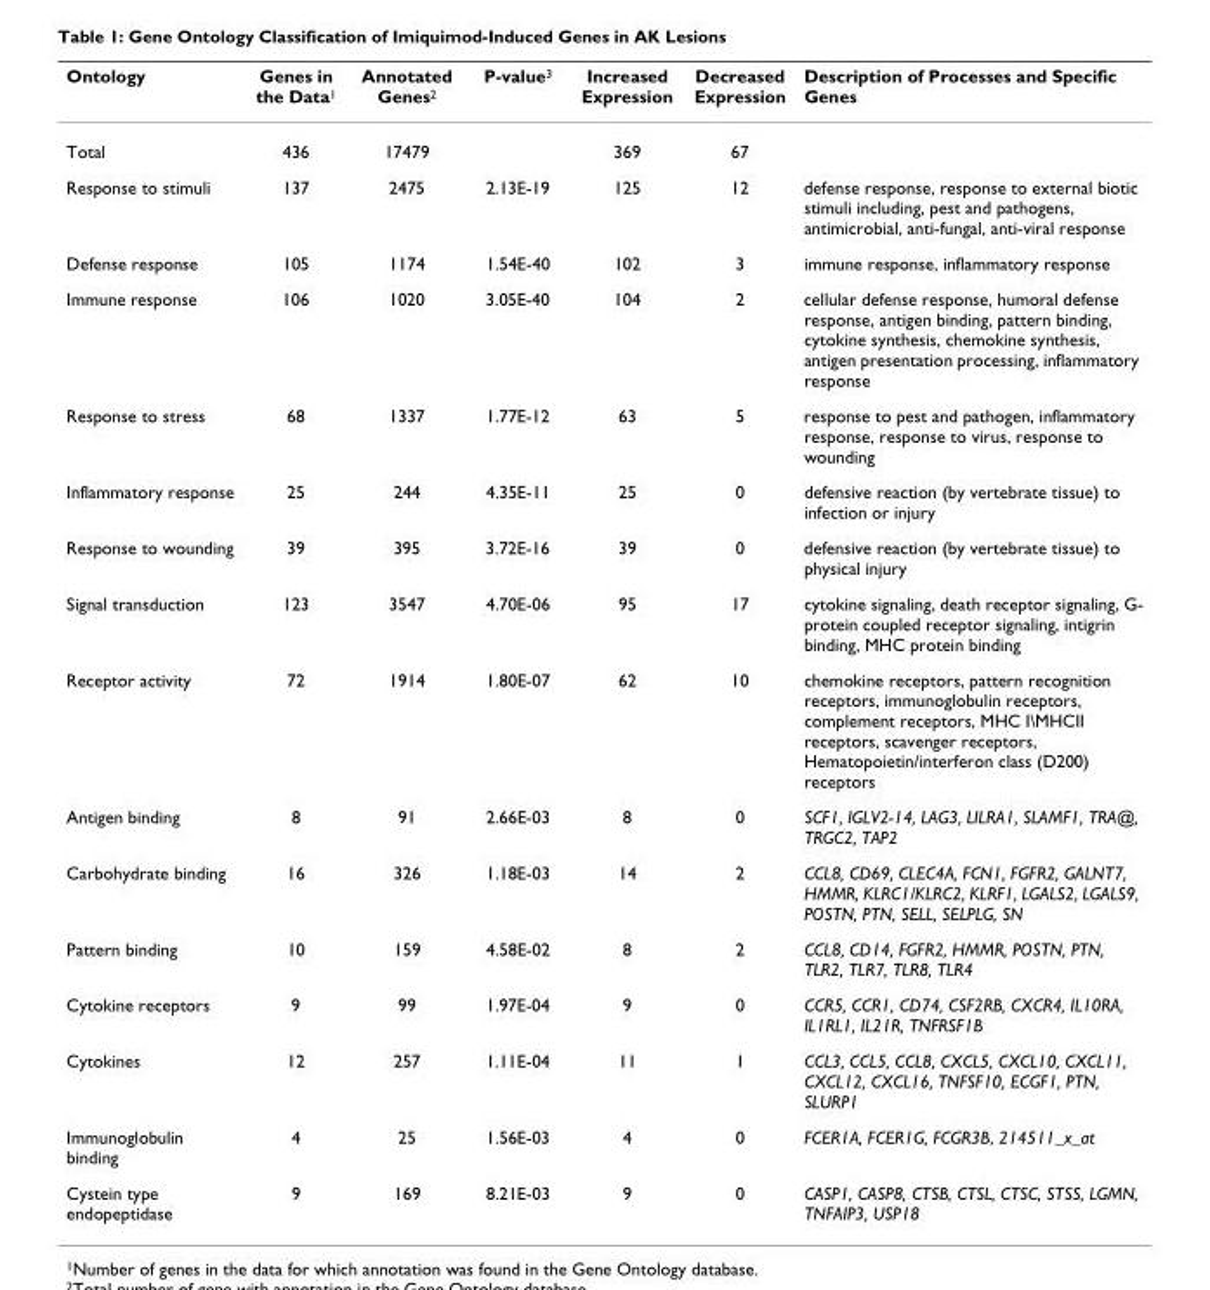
<table><thead><tr><td>Ontology</td><td>Genes in the Data<sup>1</sup></td><td>Annotated Genes<sup>2</sup></td><td>P-value<sup>3</sup></td><td>Increased Expression</td><td>Decreased Expression</td><td>Description of Processes and Specific Genes</td></tr></thead><tbody><tr><td>Total</td><td>436</td><td>17479</td><td></td><td>369</td><td>67</td><td></td></tr><tr><td>Response to stimuli</td><td>137</td><td>2475</td><td>2.13E-19</td><td>125</td><td>12</td><td>defense response, response to external biotic stimuli including, pest and pathogens, antimicrobial, anti-fungal, anti-viral response</td></tr><tr><td>Defense response</td><td>105</td><td>1174</td><td>1.54E-40</td><td>102</td><td>3</td><td>immune response, inflammatory response</td></tr><tr><td>Immune response</td><td>106</td><td>1020</td><td>3.05E-40</td><td>104</td><td>2</td><td>cellular defense response, humoral defense response, antigen binding, pattern binding, cytokine synthesis, chemokine synthesis, antigen presentation processing, inflammatory response</td></tr><tr><td>Response to stress</td><td>68</td><td>1337</td><td>1.77E-12</td><td>63</td><td>5</td><td>response to pest and pathogen, inflammatory response, response to virus, response to wounding</td></tr><tr><td>Inflammatory response</td><td>25</td><td>244</td><td>4.35E-11</td><td>25</td><td>0</td><td>defensive reaction (by vertebrate tissue) to infection or injury</td></tr><tr><td>Response to wounding</td><td>39</td><td>395</td><td>3.72E-16</td><td>39</td><td>0</td><td>defensive reaction (by vertebrate tissue) to physical injury</td></tr><tr><td>Signal transduction</td><td>123</td><td>3547</td><td>4.70E-06</td><td>95</td><td>17</td><td>cytokine signaling, death receptor signaling, G- protein coupled receptor signaling, intigrin binding, MHC protein binding</td></tr><tr><td>Receptor activity</td><td>72</td><td>1914</td><td>1.80E-07</td><td>62</td><td>10</td><td>chemokine receptors, pattern recognition receptors, immunoglobulin receptors, complement receptors, MHC I\MHCII receptors, scavenger receptors, Hematopoietin/interferon class (D200) receptors</td></tr><tr><td>Antigen binding</td><td>8</td><td>91</td><td>2.66E-03</td><td>8</td><td>0</td><td>SCF1, IGLV2-14, LAG3, LILRA1, SLAMF1, TRA@, TRGC2, TAP2</td></tr><tr><td>Carbohydrate binding</td><td>16</td><td>326</td><td>1.18E-03</td><td>14</td><td>2</td><td>CCL8, CD69, CLEC4A, FCN1, FGFR2, GALNT7, HMMR, KLRC1/KLRC2, KLRF1, LGALS2, LGALS9, POSTN, PTN, SELL, SELPLG, SN</td></tr><tr><td>Pattern binding</td><td>10</td><td>159</td><td>4.58E-02</td><td>8</td><td>2</td><td>CCL8, CD14, FGFR2, HMMR, POSTN, PTN, TLR2, TLR7, TLR8, TLR4</td></tr><tr><td>Cytokine receptors</td><td>9</td><td>99</td><td>1.97E-04</td><td>9</td><td>0</td><td>CCR5, CCR1, CD74, CSF2RB, CXCR4, IL10RA, IL1RL1, IL21R, TNFRSF1B</td></tr><tr><td>Cytokines</td><td>12</td><td>257</td><td>1.11E-04</td><td>11</td><td>1</td><td>CCL3, CCL5, CCL8, CXCL5, CXCL10, CXCL11, CXCL12, CXCL16, TNFSF10, ECGF1, PTN, SLURP1</td></tr><tr><td>Immunoglobulin binding</td><td>4</td><td>25</td><td>1.56E-03</td><td>4</td><td>0</td><td>FCER1A, FCER1G, FCGR3B, 214511_x_at</td></tr><tr><td>Cystein type endopeptidase</td><td>9</td><td>169</td><td>8.21E-03</td><td>9</td><td>0</td><td>CASP1, CASP8, CTSB, CTSL, CTSC, STSS, LGMN, TNFAIP3, USP18</td></tr></tbody></table>